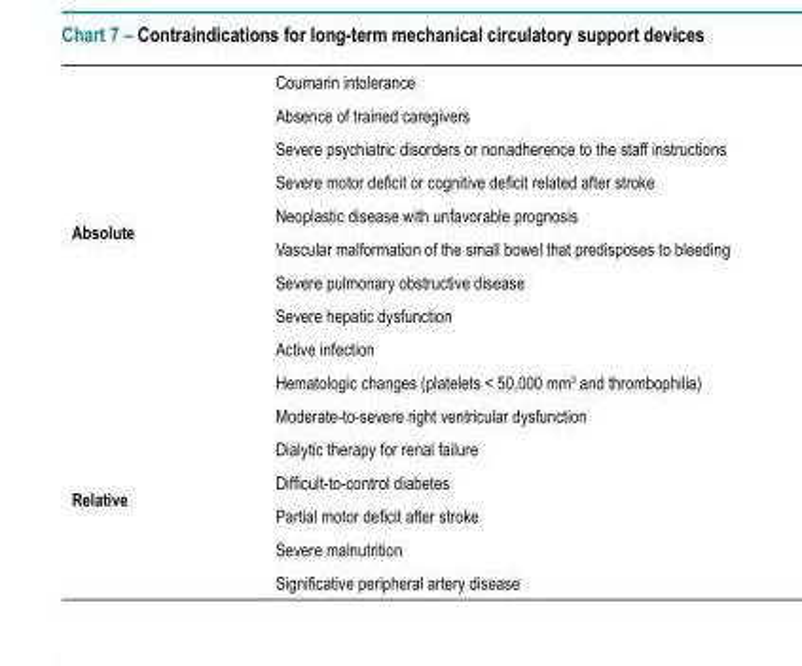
<table><tbody><tr><td rowspan="10">Absolute</td><td>Coumarin intolerance</td></tr><tr><td>Absence of trained caregivers</td></tr><tr><td>Severe psychiatric disorders or nonadherence to the staff instructions</td></tr><tr><td>Severe motor deficit or cognitive deficit related after stroke</td></tr><tr><td>Neoplastic disease with unfavorable prognosis</td></tr><tr><td>Vascular malformation of the small bowel that predisposes to bleeding</td></tr><tr><td>Severe pulmonary obstructive disease</td></tr><tr><td>Severe hepatic dysfunction</td></tr><tr><td>Active infection</td></tr><tr><td>Hematologic changes (platelets &lt; 50,000 mm<sup>3</sup> and thrombophilia)</td></tr><tr><td rowspan="6">Relative</td><td>Moderate‑to‑severe right ventricular dysfunction</td></tr><tr><td>Dialytic therapy for renal failure</td></tr><tr><td>Difficult-to-control diabetes</td></tr><tr><td>Partial motor deficit after stroke</td></tr><tr><td>Severe malnutrition</td></tr><tr><td>Significative peripheral artery disease</td></tr></tbody></table>